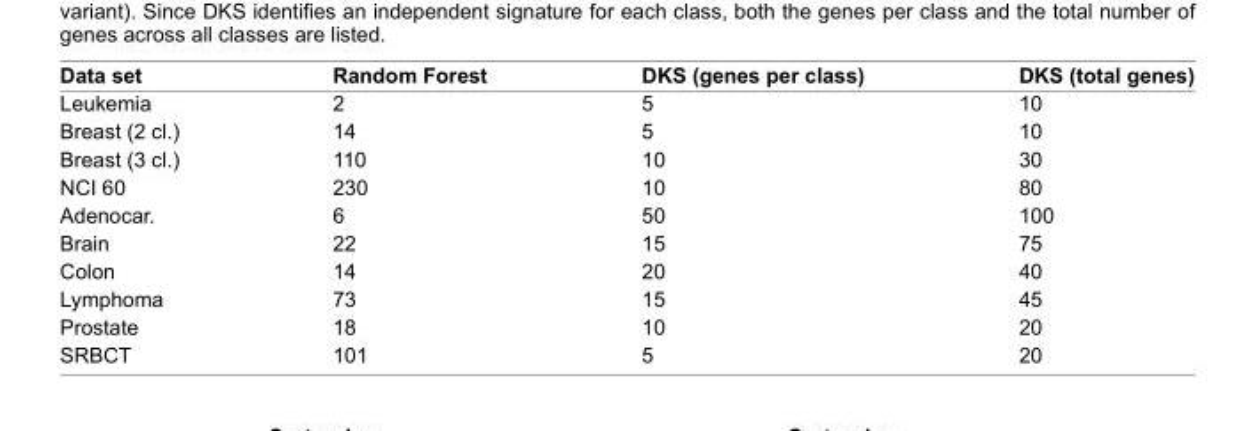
<table><thead><tr><td>Data set</td><td>Random Forest</td><td>DKS (genes per class)</td><td>DKS (total genes)</td></tr></thead><tbody><tr><td>Leukemia</td><td>2</td><td>5</td><td>10</td></tr><tr><td>Breast (2 cl.)</td><td>14</td><td>5</td><td>10</td></tr><tr><td>Breast (3 cl.)</td><td>110</td><td>10</td><td>30</td></tr><tr><td>NCI 60</td><td>230</td><td>10</td><td>80</td></tr><tr><td>Adenocar.</td><td>6</td><td>50</td><td>100</td></tr><tr><td>Brain</td><td>22</td><td>15</td><td>75</td></tr><tr><td>Colon</td><td>14</td><td>20</td><td>40</td></tr><tr><td>Lymphoma</td><td>73</td><td>15</td><td>45</td></tr><tr><td>Prostate</td><td>18</td><td>10</td><td>20</td></tr><tr><td>SRBCT</td><td>101</td><td>5</td><td>20</td></tr></tbody></table>